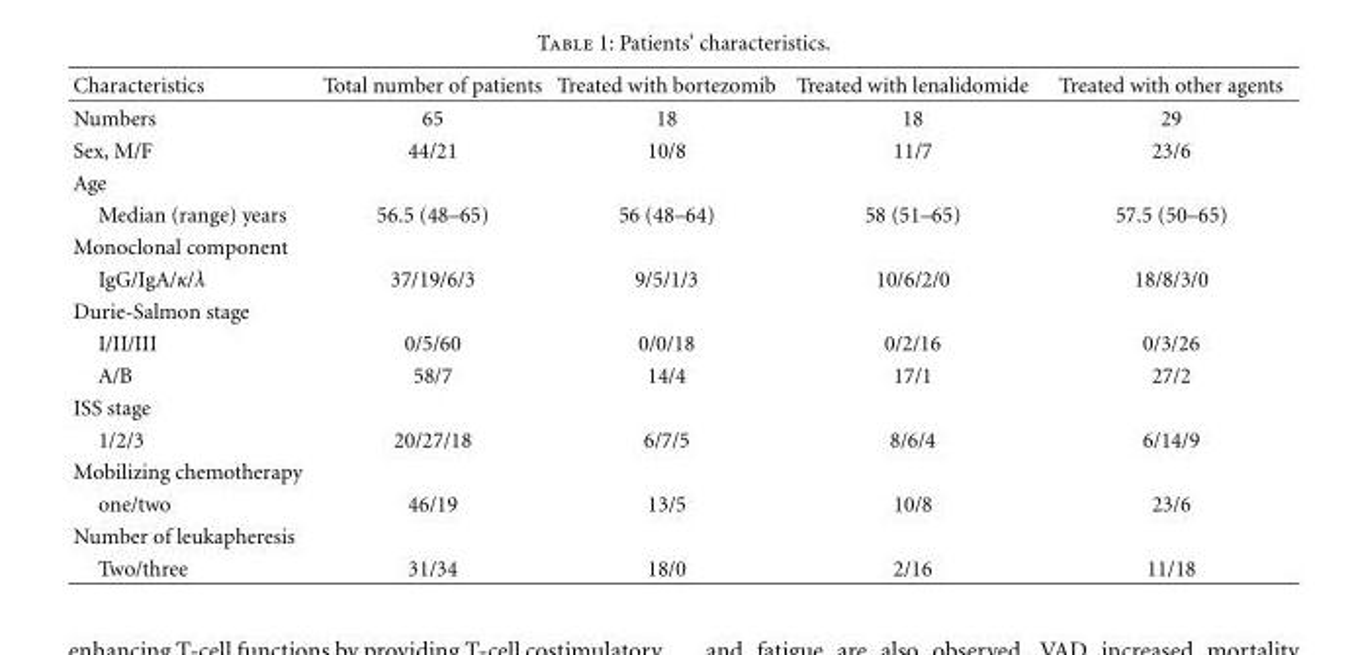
<table><thead><tr><td>Characteristics</td><td>Total number of patients</td><td>Treated with bortezomib</td><td>Treated with lenalidomide</td><td>Treated with other agents</td></tr></thead><tbody><tr><td>Numbers</td><td>65</td><td>18</td><td>18</td><td>29</td></tr><tr><td>Sex, M/F</td><td>44/21</td><td>10/8</td><td>11/7</td><td>23/6</td></tr><tr><td colspan="5">Age</td></tr><tr><td>Median (range) years</td><td>56.5 (48–65)</td><td>56 (48–64)</td><td>58 (51–65)</td><td>57.5 (50–65)</td></tr><tr><td colspan="5">Monoclonal component</td></tr><tr><td>IgG/IgA/κ/λ</td><td>37/19/6/3</td><td>9/5/1/3</td><td>10/6/2/0</td><td>18/8/3/0</td></tr><tr><td colspan="5">Durie-Salmon stage</td></tr><tr><td>I/II/III</td><td>0/5/60</td><td>0/0/18</td><td>0/2/16</td><td>0/3/26</td></tr><tr><td>A/B</td><td>58/7</td><td>14/4</td><td>17/1</td><td>27/2</td></tr><tr><td colspan="5">ISS stage</td></tr><tr><td>1/2/3</td><td>20/27/18</td><td>6/7/5</td><td>8/6/4</td><td>6/14/9</td></tr><tr><td colspan="5">Mobilizing chemotherapy</td></tr><tr><td>one/two</td><td>46/19</td><td>13/5</td><td>10/8</td><td>23/6</td></tr><tr><td colspan="5">Number of leukapheresis</td></tr><tr><td>Two/three</td><td>31/34</td><td>18/0</td><td>2/16</td><td>11/18</td></tr></tbody></table>